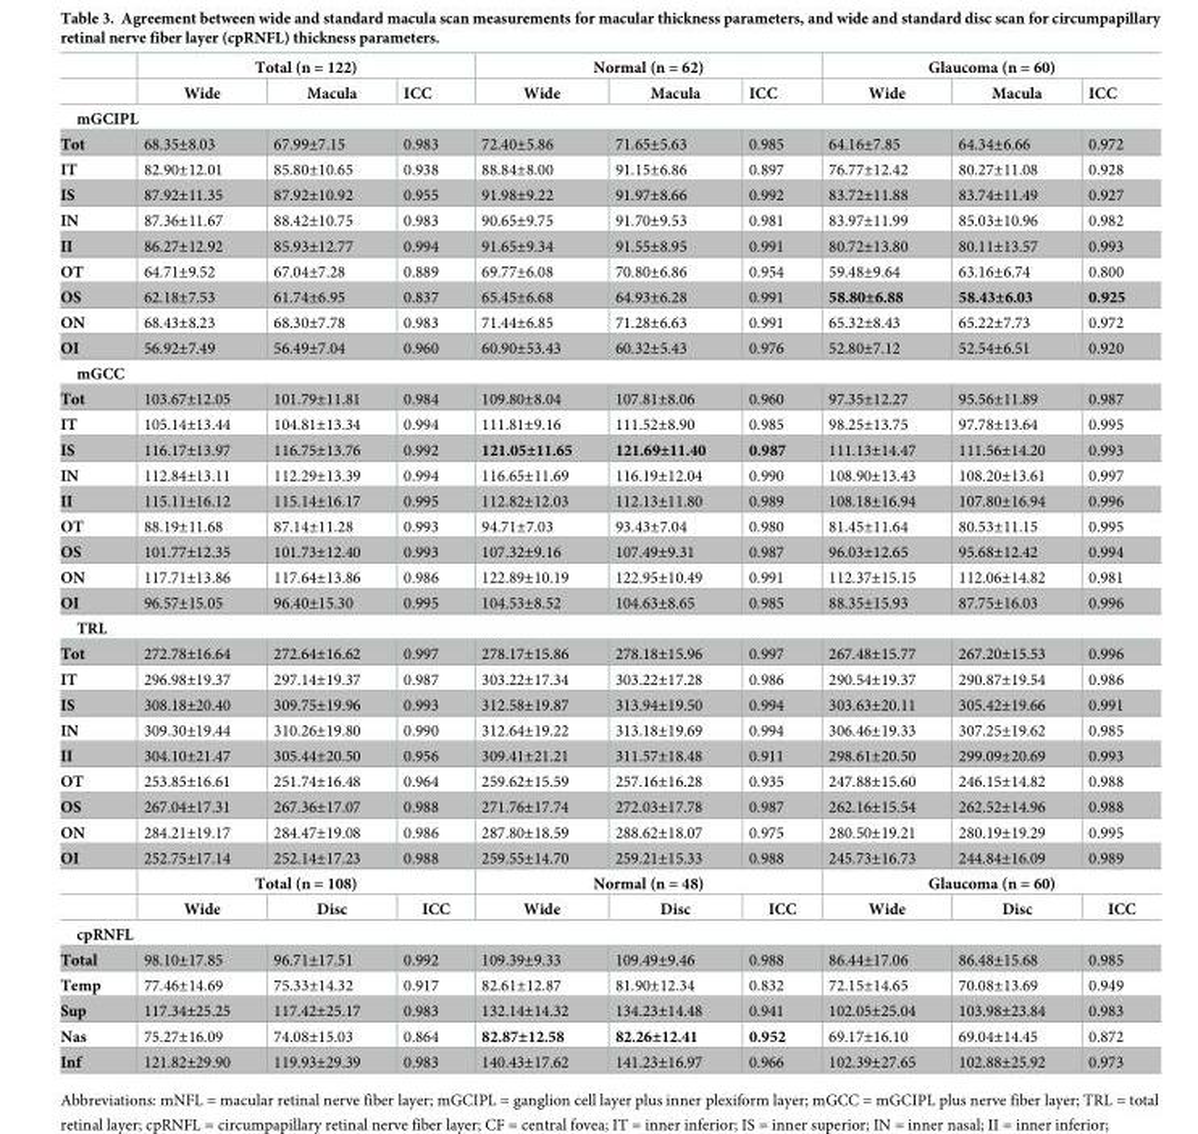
<table><thead><tr><td rowspan="2"></td><td colspan="3">Total (n = 122)</td><td colspan="3">Normal (n = 62)</td><td colspan="3">Glaucoma (n = 60)</td></tr><tr><td>Wide</td><td>Macula</td><td>ICC</td><td>Wide</td><td>Macula</td><td>ICC</td><td>Wide</td><td>Macula</td><td>ICC</td></tr></thead><tbody><tr><td colspan="10">mGCIPL</td></tr><tr><td>Tot</td><td>68.35±8.03</td><td>67.99±7.15</td><td>0.983</td><td>72.40±5.86</td><td>71.65±5.63</td><td>0.985</td><td>64.16±7.85</td><td>64.34±6.66</td><td>0.972</td></tr><tr><td>IT</td><td>82.90±12.01</td><td>85.80±10.65</td><td>0.938</td><td>88.84±8.00</td><td>91.15±6.86</td><td>0.897</td><td>76.77±12.42</td><td>80.27±11.08</td><td>0.928</td></tr><tr><td>IS</td><td>87.92±11.35</td><td>87.92±10.92</td><td>0.955</td><td>91.98±9.22</td><td>91.97±8.66</td><td>0.992</td><td>83.72±11.88</td><td>83.74±11.49</td><td>0.927</td></tr><tr><td>IN</td><td>87.36±11.67</td><td>88.42±10.75</td><td>0.983</td><td>90.65±9.75</td><td>91.70±9.53</td><td>0.981</td><td>83.97±11.99</td><td>85.03±10.96</td><td>0.982</td></tr><tr><td>II</td><td>86.27±12.92</td><td>85.93±12.77</td><td>0.994</td><td>91.65±9.34</td><td>91.55±8.95</td><td>0.991</td><td>80.72±13.80</td><td>80.11±13.57</td><td>0.993</td></tr><tr><td>OT</td><td>64.71±9.52</td><td>67.04±7.28</td><td>0.889</td><td>69.77±6.08</td><td>70.80±6.86</td><td>0.954</td><td>59.48±9.64</td><td>63.16±6.74</td><td>0.800</td></tr><tr><td>OS</td><td>62.18±7.53</td><td>61.74±6.95</td><td>0.837</td><td>65.45±6.68</td><td>64.93±6.28</td><td>0.991</td><td>58.80±6.88</td><td>58.43±6.03</td><td>0.925</td></tr><tr><td>ON</td><td>68.43±8.23</td><td>68.30±7.78</td><td>0.983</td><td>71.44±6.85</td><td>71.28±6.63</td><td>0.991</td><td>65.32±8.43</td><td>65.22±7.73</td><td>0.972</td></tr><tr><td>OI</td><td>56.92±7.49</td><td>56.49±7.04</td><td>0.960</td><td>60.90±53.43</td><td>60.32±5.43</td><td>0.976</td><td>52.80±7.12</td><td>52.54±6.51</td><td>0.920</td></tr><tr><td colspan="10">mGCC</td></tr><tr><td>Tot</td><td>103.67±12.05</td><td>101.79±11.81</td><td>0.984</td><td>109.80±8.04</td><td>107.81±8.06</td><td>0.960</td><td>97.35±12.27</td><td>95.56±11.89</td><td>0.987</td></tr><tr><td>IT</td><td>105.14±13.44</td><td>104.81±13.34</td><td>0.994</td><td>111.81±9.16</td><td>111.52±8.90</td><td>0.985</td><td>98.25±13.75</td><td>97.78±13.64</td><td>0.995</td></tr><tr><td>IS</td><td>116.17±13.97</td><td>116.75±13.76</td><td>0.992</td><td>121.05±11.65</td><td>121.69±11.40</td><td>0.987</td><td>111.13±14.47</td><td>111.56±14.20</td><td>0.993</td></tr><tr><td>IN</td><td>112.84±13.11</td><td>112.29±13.39</td><td>0.994</td><td>116.65±11.69</td><td>116.19±12.04</td><td>0.990</td><td>108.90±13.43</td><td>108.20±13.61</td><td>0.997</td></tr><tr><td>II</td><td>115.11±16.12</td><td>115.14±16.17</td><td>0.995</td><td>112.82±12.03</td><td>112.13±11.80</td><td>0.989</td><td>108.18±16.94</td><td>107.80±16.94</td><td>0.996</td></tr><tr><td>OT</td><td>88.19±11.68</td><td>87.14±11.28</td><td>0.993</td><td>94.71±7.03</td><td>93.43±7.04</td><td>0.980</td><td>81.45±11.64</td><td>80.53±11.15</td><td>0.995</td></tr><tr><td>OS</td><td>101.77±12.35</td><td>101.73±12.40</td><td>0.993</td><td>107.32±9.16</td><td>107.49±9.31</td><td>0.987</td><td>96.03±12.65</td><td>95.68±12.42</td><td>0.994</td></tr><tr><td>ON</td><td>117.71±13.86</td><td>117.64±13.86</td><td>0.986</td><td>122.89±10.19</td><td>122.95±10.49</td><td>0.991</td><td>112.37±15.15</td><td>112.06±14.82</td><td>0.981</td></tr><tr><td>OI</td><td>96.57±15.05</td><td>96.40±15.30</td><td>0.995</td><td>104.53±8.52</td><td>104.63±8.65</td><td>0.985</td><td>88.35±15.93</td><td>87.75±16.03</td><td>0.996</td></tr><tr><td colspan="10">TRL</td></tr><tr><td>Tot</td><td>272.78±16.64</td><td>272.64±16.62</td><td>0.997</td><td>278.17±15.86</td><td>278.18±15.96</td><td>0.997</td><td>267.48±15.77</td><td>267.20±15.53</td><td>0.996</td></tr><tr><td>IT</td><td>296.98±19.37</td><td>297.14±19.37</td><td>0.987</td><td>303.22±17.34</td><td>303.22±17.28</td><td>0.986</td><td>290.54±19.37</td><td>290.87±19.54</td><td>0.986</td></tr><tr><td>IS</td><td>308.18±20.40</td><td>309.75±19.96</td><td>0.993</td><td>312.58±19.87</td><td>313.94±19.50</td><td>0.994</td><td>303.63±20.11</td><td>305.42±19.66</td><td>0.991</td></tr><tr><td>IN</td><td>309.30±19.44</td><td>310.26±19.80</td><td>0.990</td><td>312.64±19.22</td><td>313.18±19.69</td><td>0.994</td><td>306.46±19.33</td><td>307.25±19.62</td><td>0.985</td></tr><tr><td>II</td><td>304.10±21.47</td><td>305.44±20.50</td><td>0.956</td><td>309.41±21.21</td><td>311.57±18.48</td><td>0.911</td><td>298.61±20.50</td><td>299.09±20.69</td><td>0.993</td></tr><tr><td>OT</td><td>253.85±16.61</td><td>251.74±16.48</td><td>0.964</td><td>259.62±15.59</td><td>257.16±16.28</td><td>0.935</td><td>247.88±15.60</td><td>246.15±14.82</td><td>0.988</td></tr><tr><td>OS</td><td>267.04±17.31</td><td>267.36±17.07</td><td>0.988</td><td>271.76±17.74</td><td>272.03±17.78</td><td>0.987</td><td>262.16±15.54</td><td>262.52±14.96</td><td>0.988</td></tr><tr><td>ON</td><td>284.21±19.17</td><td>284.47±19.08</td><td>0.986</td><td>287.80±18.59</td><td>288.62±18.07</td><td>0.975</td><td>280.50±19.21</td><td>280.19±19.29</td><td>0.995</td></tr><tr><td rowspan="3">OI</td><td>252.75±17.14</td><td>252.14±17.23</td><td>0.988</td><td>259.55±14.70</td><td>259.21±15.33</td><td>0.988</td><td>245.73±16.73</td><td>244.84±16.09</td><td>0.989</td></tr><tr><td colspan="3">Total (n = 108)</td><td colspan="3">Normal (n = 48)</td><td colspan="3">Glaucoma (n = 60)</td></tr><tr><td>Wide</td><td>Disc</td><td>ICC</td><td>Wide</td><td>Disc</td><td>ICC</td><td>Wide</td><td>Disc</td><td>ICC</td></tr><tr><td colspan="10">cpRNFL</td></tr><tr><td>Total</td><td>98.10±17.85</td><td>96.71±17.51</td><td>0.992</td><td>109.39±9.33</td><td>109.49±9.46</td><td>0.988</td><td>86.44±17.06</td><td>86.48±15.68</td><td>0.985</td></tr><tr><td>Temp</td><td>77.46±14.69</td><td>75.33±14.32</td><td>0.917</td><td>82.61±12.87</td><td>81.90±12.34</td><td>0.832</td><td>72.15±14.65</td><td>70.08±13.69</td><td>0.949</td></tr><tr><td>Sup</td><td>117.34±25.25</td><td>117.42±25.17</td><td>0.983</td><td>132.14±14.32</td><td>134.23±14.48</td><td>0.941</td><td>102.05±25.04</td><td>103.98±23.84</td><td>0.983</td></tr><tr><td>Nas</td><td>75.27±16.09</td><td>74.08±15.03</td><td>0.864</td><td>82.87±12.58</td><td>82.26±12.41</td><td>0.952</td><td>69.17±16.10</td><td>69.04±14.45</td><td>0.872</td></tr><tr><td>Inf</td><td>121.82±29.90</td><td>119.93±29.39</td><td>0.983</td><td>140.43±17.62</td><td>141.23±16.97</td><td>0.966</td><td>102.39±27.65</td><td>102.88±25.92</td><td>0.973</td></tr></tbody></table>